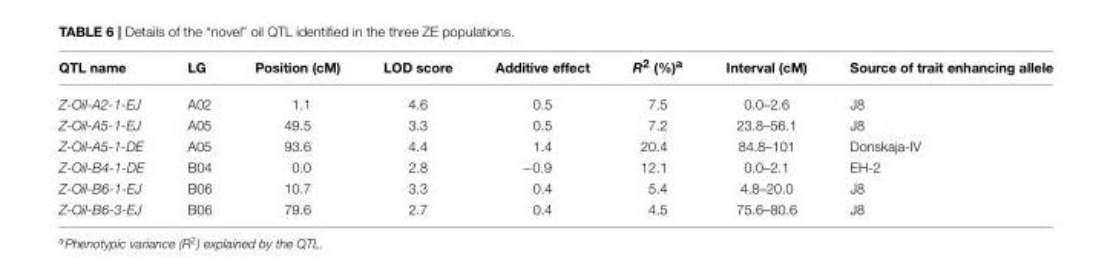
<table><thead><tr><td>QTL name</td><td>LG</td><td>Position (cM)</td><td>LOD score</td><td>Additive effect</td><td>R<sup>2</sup> (%)<sup>a</sup></td><td>Interval (cM)</td><td>Source of trait enhancing allele</td></tr></thead><tbody><tr><td>Z-Oil-A2-1-EJ</td><td>A02</td><td>1.1</td><td>4.6</td><td>0.5</td><td>7.5</td><td>0.0–2.6</td><td>J8</td></tr><tr><td>Z-Oil-A5-1-EJ</td><td>A05</td><td>49.5</td><td>3.3</td><td>0.5</td><td>7.2</td><td>23.8–56.1</td><td>J8</td></tr><tr><td>Z-Oil-A5-1-DE</td><td>A05</td><td>93.6</td><td>4.4</td><td>1.4</td><td>20.4</td><td>84.8–101</td><td>Donskaja-IV</td></tr><tr><td>Z-Oil-B4-1-DE</td><td>B04</td><td>0.0</td><td>2.8</td><td>−0.9</td><td>12.1</td><td>0.0–2.1</td><td>EH-2</td></tr><tr><td>Z-Oil-B6-1-EJ</td><td>B06</td><td>10.7</td><td>3.3</td><td>0.4</td><td>5.4</td><td>4.8–20.0</td><td>J8</td></tr><tr><td>Z-Oil-B6-3-EJ</td><td>B06</td><td>79.6</td><td>2.7</td><td>0.4</td><td>4.5</td><td>75.6–80.6</td><td>J8</td></tr></tbody></table>